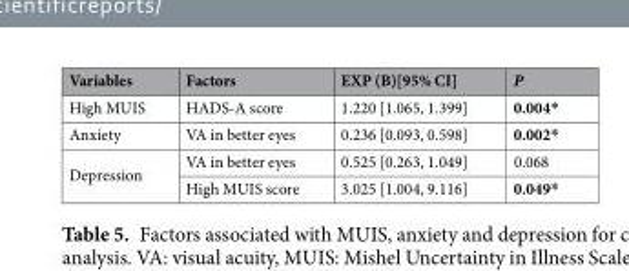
<table><thead><tr><td>Variables</td><td>Factors</td><td>EXP (B)[95% CI]</td><td>P</td></tr></thead><tbody><tr><td>High MUIS</td><td>HADS-A score</td><td>1.220 [1.065, 1.399]</td><td>0.004*</td></tr><tr><td>Anxiety</td><td>VA in better eyes</td><td>0.236 [0.093, 0.598]</td><td>0.002*</td></tr><tr><td rowspan="2">Depression</td><td>VA in better eyes</td><td>0.525 [0.263, 1.049]</td><td>0.068</td></tr><tr><td>High MUIS score</td><td>3.025 [1.004, 9.116]</td><td>0.049*</td></tr></tbody></table>